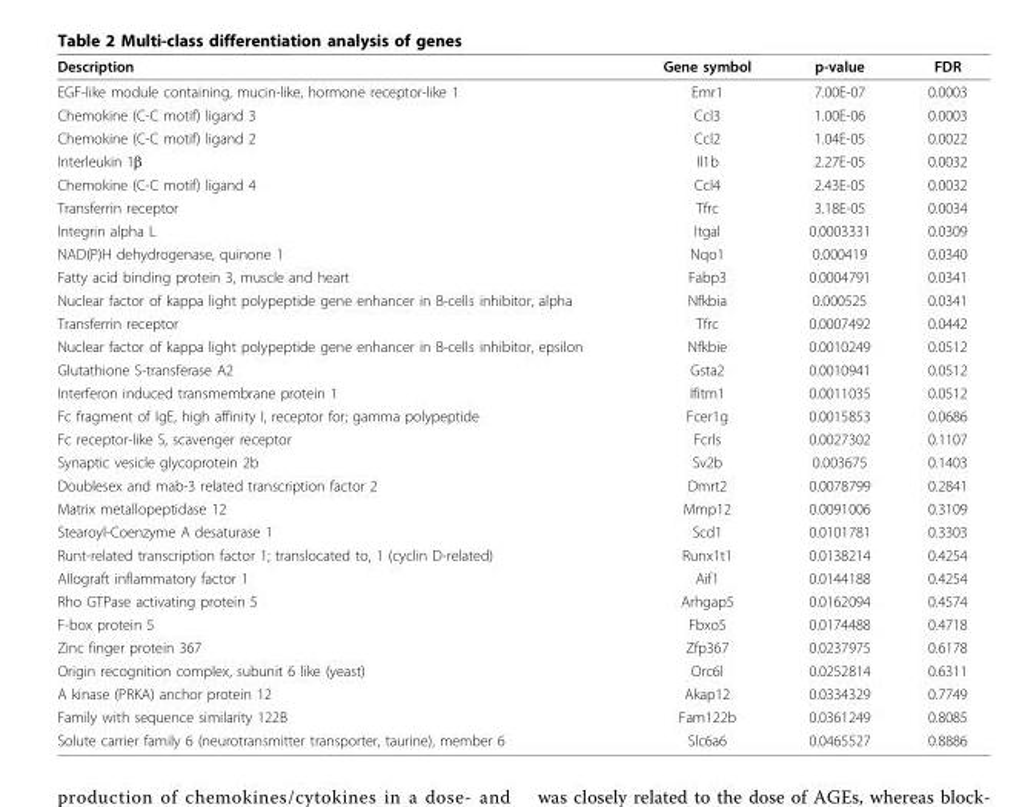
<table><thead><tr><td>Description</td><td>Gene symbol</td><td>p-value</td><td>FDR</td></tr></thead><tbody><tr><td>EGF-like module containing, mucin-like, hormone receptor-like 1</td><td>Emr1</td><td>7.00E-07</td><td>0.0003</td></tr><tr><td>Chemokine (C-C motif) ligand 3</td><td>Ccl3</td><td>1.00E-06</td><td>0.0003</td></tr><tr><td>Chemokine (C-C motif) ligand 2</td><td>Ccl2</td><td>1.04E-05</td><td>0.0022</td></tr><tr><td>Interleukin 1β</td><td>Il1b</td><td>2.27E-05</td><td>0.0032</td></tr><tr><td>Chemokine (C-C motif) ligand 4</td><td>Ccl4</td><td>2.43E-05</td><td>0.0032</td></tr><tr><td>Transferrin receptor</td><td>Tfrc</td><td>3.18E-05</td><td>0.0034</td></tr><tr><td>Integrin alpha L</td><td>Itgal</td><td>0.0003331</td><td>0.0309</td></tr><tr><td>NAD(P)H dehydrogenase, quinone 1</td><td>Nqo1</td><td>0.000419</td><td>0.0340</td></tr><tr><td>Fatty acid binding protein 3, muscle and heart</td><td>Fabp3</td><td>0.0004791</td><td>0.0341</td></tr><tr><td>Nuclear factor of kappa light polypeptide gene enhancer in B-cells inhibitor, alpha</td><td>Nfkbia</td><td>0.000525</td><td>0.0341</td></tr><tr><td>Transferrin receptor</td><td>Tfrc</td><td>0.0007492</td><td>0.0442</td></tr><tr><td>Nuclear factor of kappa light polypeptide gene enhancer in B-cells inhibitor, epsilon</td><td>Nfkbie</td><td>0.0010249</td><td>0.0512</td></tr><tr><td>Glutathione S-transferase A2</td><td>Gsta2</td><td>0.0010941</td><td>0.0512</td></tr><tr><td>Interferon induced transmembrane protein 1</td><td>Ifitm1</td><td>0.0011035</td><td>0.0512</td></tr><tr><td>Fc fragment of IgE, high affinity I, receptor for; gamma polypeptide</td><td>Fcer1g</td><td>0.0015853</td><td>0.0686</td></tr><tr><td>Fc receptor-like S, scavenger receptor</td><td>Fcrls</td><td>0.0027302</td><td>0.1107</td></tr><tr><td>Synaptic vesicle glycoprotein 2b</td><td>Sv2b</td><td>0.003675</td><td>0.1403</td></tr><tr><td>Doublesex and mab-3 related transcription factor 2</td><td>Dmrt2</td><td>0.0078799</td><td>0.2841</td></tr><tr><td>Matrix metallopeptidase 12</td><td>Mmp12</td><td>0.0091006</td><td>0.3109</td></tr><tr><td>Stearoyl-Coenzyme A desaturase 1</td><td>Scd1</td><td>0.0101781</td><td>0.3303</td></tr><tr><td>Runt-related transcription factor 1; translocated to, 1 (cyclin D-related)</td><td>Runx1t1</td><td>0.0138214</td><td>0.4254</td></tr><tr><td>Allograft inflammatory factor 1</td><td>Aif1</td><td>0.0144188</td><td>0.4254</td></tr><tr><td>Rho GTPase activating protein 5</td><td>Arhgap5</td><td>0.0162094</td><td>0.4574</td></tr><tr><td>F-box protein 5</td><td>Fbxo5</td><td>0.0174488</td><td>0.4718</td></tr><tr><td>Zinc finger protein 367</td><td>Zfp367</td><td>0.0237975</td><td>0.6178</td></tr><tr><td>Origin recognition complex, subunit 6 like (yeast)</td><td>Orc6l</td><td>0.0252814</td><td>0.6311</td></tr><tr><td>A kinase (PRKA) anchor protein 12</td><td>Akap12</td><td>0.0334329</td><td>0.7749</td></tr><tr><td>Family with sequence similarity 122B</td><td>Fam122b</td><td>0.0361249</td><td>0.8085</td></tr><tr><td>Solute carrier family 6 (neurotransmitter transporter, taurine), member 6</td><td>Slc6a6</td><td>0.0465527</td><td>0.8886</td></tr></tbody></table>